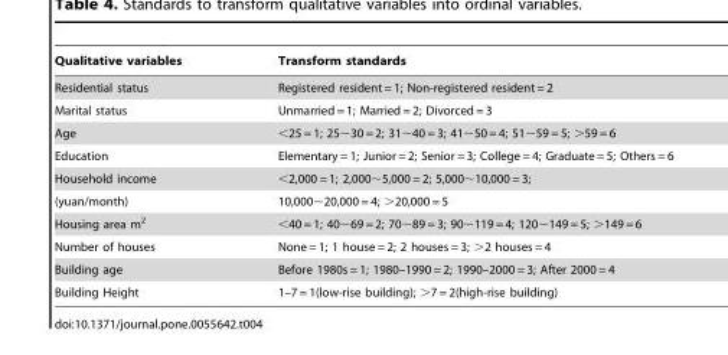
<table><thead><tr><td>Qualitative variables</td><td>Transform standards</td></tr></thead><tbody><tr><td>Residential status</td><td>Registered resident = 1; Non-registered resident = 2</td></tr><tr><td>Marital status</td><td>Unmarried = 1; Married = 2; Divorced = 3</td></tr><tr><td>Age</td><td>&lt;25 = 1; 25∼30 = 2; 31∼40 = 3; 41∼50 = 4; 51∼59 = 5; &gt;59 = 6</td></tr><tr><td>Education</td><td>Elementary = 1; Junior = 2; Senior = 3; College = 4; Graduate = 5; Others = 6</td></tr><tr><td>Household income</td><td>&lt;2,000 = 1; 2,000∼5,000 = 2; 5,000∼10,000 = 3;</td></tr><tr><td>(yuan/month)</td><td>10,000∼20,000 = 4; &gt;20,000 = 5</td></tr><tr><td>Housing area m<sup>2</sup></td><td>&lt;40 = 1; 40∼69 = 2; 70∼89 = 3; 90∼119 = 4; 120∼149 = 5; &gt;149 = 6</td></tr><tr><td>Number of houses</td><td>None = 1; 1 house = 2; 2 houses = 3; &gt;2 houses = 4</td></tr><tr><td>Building age</td><td>Before 1980s = 1; 1980–1990 = 2; 1990–2000 = 3; After 2000 = 4</td></tr><tr><td>Building Height</td><td>1–7 = 1(low-rise building); &gt;7 = 2(high-rise building)</td></tr></tbody></table>